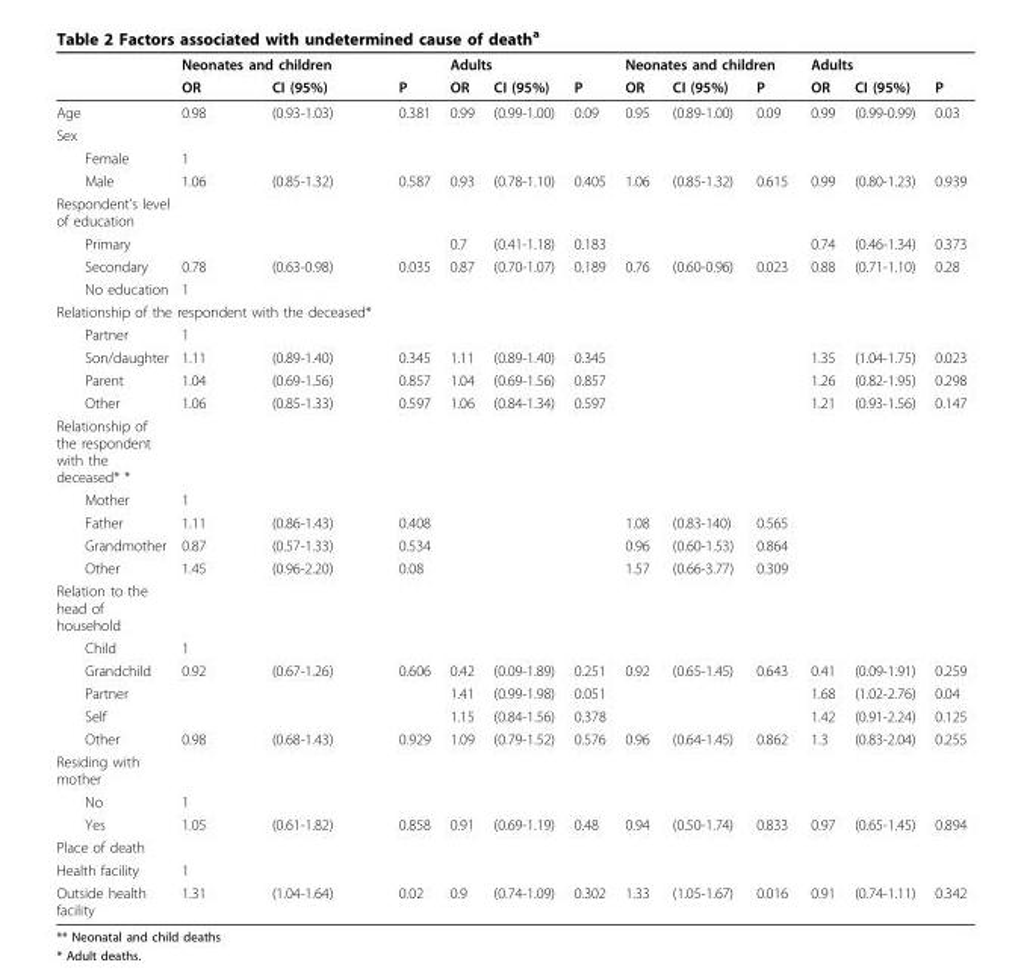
<table><thead><tr><td rowspan="2"></td><td colspan="3">Neonates and children</td><td colspan="3">Adults</td><td colspan="3">Neonates and children</td><td colspan="3">Adults</td></tr><tr><td>OR</td><td>CI (95%)</td><td>P</td><td>OR</td><td>CI (95%)</td><td>P</td><td>OR</td><td>CI (95%)</td><td>P</td><td>OR</td><td>CI (95%)</td><td>P</td></tr></thead><tbody><tr><td>Age</td><td>0.98</td><td>(0.93-1.03)</td><td>0.381</td><td>0.99</td><td>(0.99-1.00)</td><td>0.09</td><td>0.95</td><td>(0.89-1.00)</td><td>0.09</td><td>0.99</td><td>(0.99-0.99)</td><td>0.03</td></tr><tr><td colspan="13">Sex</td></tr><tr><td>Female</td><td>1</td><td></td><td></td><td></td><td></td><td></td><td></td><td></td><td></td><td></td><td></td><td></td></tr><tr><td>Male</td><td>1.06</td><td>(0.85-1.32)</td><td>0.587</td><td>0.93</td><td>(0.78-1.10)</td><td>0.405</td><td>1.06</td><td>(0.85-1.32)</td><td>0.615</td><td>0.99</td><td>(0.80-1.23)</td><td>0.939</td></tr><tr><td colspan="13">Respondent’s level of education</td></tr><tr><td>Primary</td><td></td><td></td><td></td><td>0.7</td><td>(0.41-1.18)</td><td>0.183</td><td></td><td></td><td></td><td>0.74</td><td>(0.46-1.34)</td><td>0.373</td></tr><tr><td>Secondary</td><td>0.78</td><td>(0.63-0.98)</td><td>0.035</td><td>0.87</td><td>(0.70-1.07)</td><td>0.189</td><td>0.76</td><td>(0.60-0.96)</td><td>0.023</td><td>0.88</td><td>(0.71-1.10)</td><td>0.28</td></tr><tr><td>No education</td><td>1</td><td></td><td></td><td></td><td></td><td></td><td></td><td></td><td></td><td></td><td></td><td></td></tr><tr><td colspan="13">Relationship of the respondent with the deceased*</td></tr><tr><td>Partner</td><td>1</td><td></td><td></td><td></td><td></td><td></td><td></td><td></td><td></td><td></td><td></td><td></td></tr><tr><td>Son/daughter</td><td>1.11</td><td>(0.89-1.40)</td><td>0.345</td><td>1.11</td><td>(0.89-1.40)</td><td>0.345</td><td></td><td></td><td></td><td>1.35</td><td>(1.04-1.75)</td><td>0.023</td></tr><tr><td>Parent</td><td>1.04</td><td>(0.69-1.56)</td><td>0.857</td><td>1.04</td><td>(0.69-1.56)</td><td>0.857</td><td></td><td></td><td></td><td>1.26</td><td>(0.82-1.95)</td><td>0.298</td></tr><tr><td>Other</td><td>1.06</td><td>(0.85-1.33)</td><td>0.597</td><td>1.06</td><td>(0.84-1.34)</td><td>0.597</td><td></td><td></td><td></td><td>1.21</td><td>(0.93-1.56)</td><td>0.147</td></tr><tr><td colspan="13">Relationship of the respondent with the deceased* *</td></tr><tr><td>Mother</td><td>1</td><td></td><td></td><td></td><td></td><td></td><td></td><td></td><td></td><td></td><td></td><td></td></tr><tr><td>Father</td><td>1.11</td><td>(0.86-1.43)</td><td>0.408</td><td></td><td></td><td></td><td>1.08</td><td>(0.83-140)</td><td>0.565</td><td></td><td></td><td></td></tr><tr><td>Grandmother</td><td>0.87</td><td>(0.57-1.33)</td><td>0.534</td><td></td><td></td><td></td><td>0.96</td><td>(0.60-1.53)</td><td>0.864</td><td></td><td></td><td></td></tr><tr><td>Other</td><td>1.45</td><td>(0.96-2.20)</td><td>0.08</td><td></td><td></td><td></td><td>1.57</td><td>(0.66-3.77)</td><td>0.309</td><td></td><td></td><td></td></tr><tr><td colspan="13">Relation to the head of household</td></tr><tr><td>Child</td><td>1</td><td></td><td></td><td></td><td></td><td></td><td></td><td></td><td></td><td></td><td></td><td></td></tr><tr><td>Grandchild</td><td>0.92</td><td>(0.67-1.26)</td><td>0.606</td><td>0.42</td><td>(0.09-1.89)</td><td>0.251</td><td>0.92</td><td>(0.65-1.45)</td><td>0.643</td><td>0.41</td><td>(0.09-1.91)</td><td>0.259</td></tr><tr><td>Partner</td><td></td><td></td><td></td><td>1.41</td><td>(0.99-1.98)</td><td>0.051</td><td></td><td></td><td></td><td>1.68</td><td>(1.02-2.76)</td><td>0.04</td></tr><tr><td>Self</td><td></td><td></td><td></td><td>1.15</td><td>(0.84-1.56)</td><td>0.378</td><td></td><td></td><td></td><td>1.42</td><td>(0.91-2.24)</td><td>0.125</td></tr><tr><td>Other</td><td>0.98</td><td>(0.68-1.43)</td><td>0.929</td><td>1.09</td><td>(0.79-1.52)</td><td>0.576</td><td>0.96</td><td>(0.64-1.45)</td><td>0.862</td><td>1.3</td><td>(0.83-2.04)</td><td>0.255</td></tr><tr><td colspan="13">Residing with mother</td></tr><tr><td>No</td><td>1</td><td></td><td></td><td></td><td></td><td></td><td></td><td></td><td></td><td></td><td></td><td></td></tr><tr><td>Yes</td><td>1.05</td><td>(0.61-1.82)</td><td>0.858</td><td>0.91</td><td>(0.69-1.19)</td><td>0.48</td><td>0.94</td><td>(0.50-1.74)</td><td>0.833</td><td>0.97</td><td>(0.65-1.45)</td><td>0.894</td></tr><tr><td colspan="13">Place of death</td></tr><tr><td>Health facility</td><td>1</td><td></td><td></td><td></td><td></td><td></td><td></td><td></td><td></td><td></td><td></td><td></td></tr><tr><td>Outside health facility</td><td>1.31</td><td>(1.04-1.64)</td><td>0.02</td><td>0.9</td><td>(0.74-1.09)</td><td>0.302</td><td>1.33</td><td>(1.05-1.67)</td><td>0.016</td><td>0.91</td><td>(0.74-1.11)</td><td>0.342</td></tr></tbody></table>